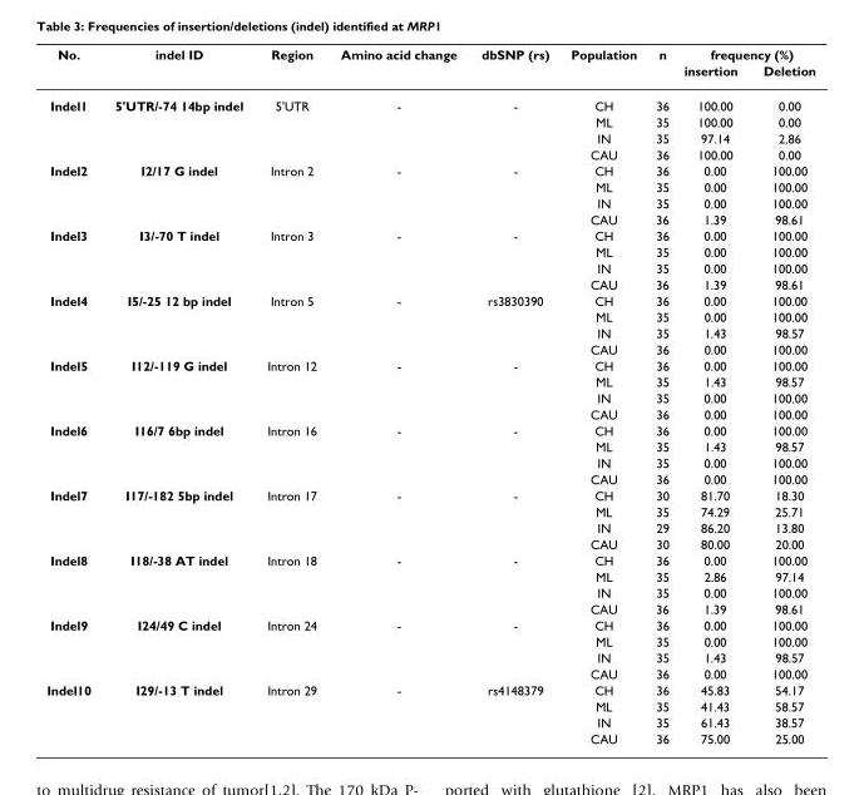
<table><thead><tr><td rowspan="2">No.</td><td rowspan="2">indel ID</td><td rowspan="2">Region</td><td rowspan="2">Amino acid change</td><td rowspan="2">dbSNP (rs)</td><td rowspan="2">Population</td><td rowspan="2">n</td><td colspan="2">frequency (%)</td></tr><tr><td>insertion</td><td>Deletion</td></tr></thead><tbody><tr><td rowspan="4">Indel1</td><td>5&#x27;UTR/-74 14bp indel</td><td>5&#x27;UTR</td><td>-</td><td>-</td><td>CH</td><td>36</td><td>100.00</td><td>0.00</td></tr><tr><td></td><td></td><td></td><td></td><td>ML</td><td>35</td><td>100.00</td><td>0.00</td></tr><tr><td></td><td></td><td></td><td></td><td>IN</td><td>35</td><td>97.14</td><td>2.86</td></tr><tr><td></td><td></td><td></td><td></td><td>CAU</td><td>36</td><td>100.00</td><td>0.00</td></tr><tr><td rowspan="4">Indel2</td><td>I2/17 G indel</td><td>Intron 2</td><td>-</td><td>-</td><td>CH</td><td>36</td><td>0.00</td><td>100.00</td></tr><tr><td></td><td></td><td></td><td></td><td>ML</td><td>35</td><td>0.00</td><td>100.00</td></tr><tr><td></td><td></td><td></td><td></td><td>IN</td><td>35</td><td>0.00</td><td>100.00</td></tr><tr><td></td><td></td><td></td><td></td><td>CAU</td><td>36</td><td>1.39</td><td>98.61</td></tr><tr><td rowspan="4">Indel3</td><td>I3/-70 T indel</td><td>Intron 3</td><td>-</td><td>-</td><td>CH</td><td>36</td><td>0.00</td><td>100.00</td></tr><tr><td></td><td></td><td></td><td></td><td>ML</td><td>35</td><td>0.00</td><td>100.00</td></tr><tr><td></td><td></td><td></td><td></td><td>IN</td><td>35</td><td>0.00</td><td>100.00</td></tr><tr><td></td><td></td><td></td><td></td><td>CAU</td><td>36</td><td>1.39</td><td>98.61</td></tr><tr><td rowspan="4">Indel4</td><td>I5/-25 12 bp indel</td><td>Intron 5</td><td>-</td><td>rs3830390</td><td>CH</td><td>36</td><td>0.00</td><td>100.00</td></tr><tr><td></td><td></td><td></td><td></td><td>ML</td><td>35</td><td>0.00</td><td>100.00</td></tr><tr><td></td><td></td><td></td><td></td><td>IN</td><td>35</td><td>1.43</td><td>98.57</td></tr><tr><td></td><td></td><td></td><td></td><td>CAU</td><td>36</td><td>0.00</td><td>100.00</td></tr><tr><td rowspan="4">Indel5</td><td>I12/-119 G indel</td><td>Intron 12</td><td>-</td><td>-</td><td>CH</td><td>36</td><td>0.00</td><td>100.00</td></tr><tr><td></td><td></td><td></td><td></td><td>ML</td><td>35</td><td>1.43</td><td>98.57</td></tr><tr><td></td><td></td><td></td><td></td><td>IN</td><td>35</td><td>0.00</td><td>100.00</td></tr><tr><td></td><td></td><td></td><td></td><td>CAU</td><td>36</td><td>0.00</td><td>100.00</td></tr><tr><td rowspan="4">Indel6</td><td>I16/7 6bp indel</td><td>Intron 16</td><td>-</td><td>-</td><td>CH</td><td>36</td><td>0.00</td><td>100.00</td></tr><tr><td></td><td></td><td></td><td></td><td>ML</td><td>35</td><td>1.43</td><td>98.57</td></tr><tr><td></td><td></td><td></td><td></td><td>IN</td><td>35</td><td>0.00</td><td>100.00</td></tr><tr><td></td><td></td><td></td><td></td><td>CAU</td><td>36</td><td>0.00</td><td>100.00</td></tr><tr><td rowspan="4">Indel7</td><td>I17/-182 5bp indel</td><td>Intron 17</td><td>-</td><td>-</td><td>CH</td><td>30</td><td>81.70</td><td>18.30</td></tr><tr><td></td><td></td><td></td><td></td><td>ML</td><td>35</td><td>74.29</td><td>25.71</td></tr><tr><td></td><td></td><td></td><td></td><td>IN</td><td>29</td><td>86.20</td><td>13.80</td></tr><tr><td></td><td></td><td></td><td></td><td>CAU</td><td>30</td><td>80.00</td><td>20.00</td></tr><tr><td rowspan="4">Indel8</td><td>I18/-38 AT indel</td><td>Intron 18</td><td>-</td><td>-</td><td>CH</td><td>36</td><td>0.00</td><td>100.00</td></tr><tr><td></td><td></td><td></td><td></td><td>ML</td><td>35</td><td>2.86</td><td>97.14</td></tr><tr><td></td><td></td><td></td><td></td><td>IN</td><td>35</td><td>0.00</td><td>100.00</td></tr><tr><td></td><td></td><td></td><td></td><td>CAU</td><td>36</td><td>1.39</td><td>98.61</td></tr><tr><td rowspan="4">Indel9</td><td>I24/49 C indel</td><td>Intron 24</td><td>-</td><td>-</td><td>CH</td><td>36</td><td>0.00</td><td>100.00</td></tr><tr><td></td><td></td><td></td><td></td><td>ML</td><td>35</td><td>0.00</td><td>100.00</td></tr><tr><td></td><td></td><td></td><td></td><td>IN</td><td>35</td><td>1.43</td><td>98.57</td></tr><tr><td></td><td></td><td></td><td></td><td>CAU</td><td>36</td><td>0.00</td><td>100.00</td></tr><tr><td rowspan="4">Indel10</td><td>I29/-13 T indel</td><td>Intron 29</td><td>-</td><td>rs4148379</td><td>CH</td><td>36</td><td>45.83</td><td>54.17</td></tr><tr><td></td><td></td><td></td><td></td><td>ML</td><td>35</td><td>41.43</td><td>58.57</td></tr><tr><td></td><td></td><td></td><td></td><td>IN</td><td>35</td><td>61.43</td><td>38.57</td></tr><tr><td></td><td></td><td></td><td></td><td>CAU</td><td>36</td><td>75.00</td><td>25.00</td></tr></tbody></table>